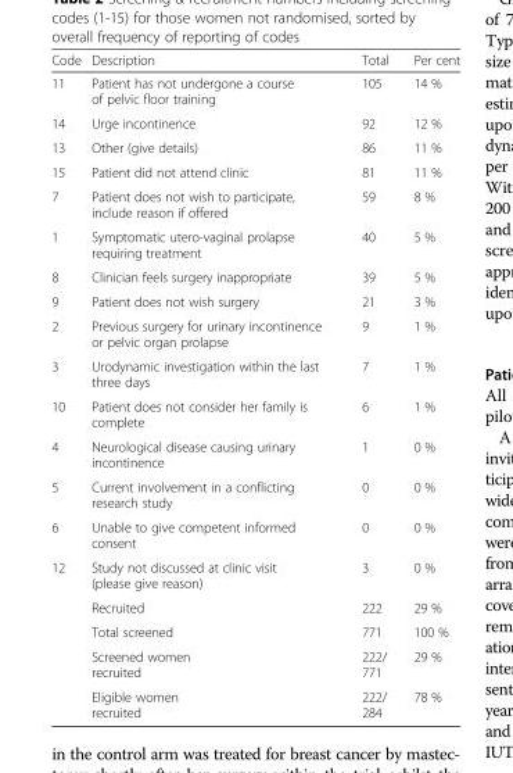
<table><thead><tr><td>Code</td><td>Description</td><td>Total</td><td>Per cent</td></tr></thead><tbody><tr><td>11</td><td>Patient has not undergone a course of pelvic floor training</td><td>105</td><td>14 %</td></tr><tr><td>14</td><td>Urge incontinence</td><td>92</td><td>12 %</td></tr><tr><td>13</td><td>Other (give details)</td><td>86</td><td>11 %</td></tr><tr><td>15</td><td>Patient did not attend clinic</td><td>81</td><td>11 %</td></tr><tr><td>7</td><td>Patient does not wish to participate, include reason if offered</td><td>59</td><td>8 %</td></tr><tr><td>1</td><td>Symptomatic utero-vaginal prolapse requiring treatment</td><td>40</td><td>5 %</td></tr><tr><td>8</td><td>Clinician feels surgery inappropriate</td><td>39</td><td>5 %</td></tr><tr><td>9</td><td>Patient does not wish surgery</td><td>21</td><td>3 %</td></tr><tr><td>2</td><td>Previous surgery for urinary incontinence or pelvic organ prolapse</td><td>9</td><td>1 %</td></tr><tr><td>3</td><td>Urodynamic investigation within the last three days</td><td>7</td><td>1 %</td></tr><tr><td>10</td><td>Patient does not consider her family is complete</td><td>6</td><td>1 %</td></tr><tr><td>4</td><td>Neurological disease causing urinary incontinence</td><td>1</td><td>0 %</td></tr><tr><td>5</td><td>Current involvement in a conflicting research study</td><td>0</td><td>0 %</td></tr><tr><td>6</td><td>Unable to give competent informed consent</td><td>0</td><td>0 %</td></tr><tr><td rowspan="5">12</td><td>Study not discussed at clinic visit (please give reason)</td><td>3</td><td>0 %</td></tr><tr><td>Recruited</td><td>222</td><td>29 %</td></tr><tr><td>Total screened</td><td>771</td><td>100 %</td></tr><tr><td>Screened women recruited</td><td>222/ 771</td><td>29 %</td></tr><tr><td>Eligible women recruited</td><td>222/ 284</td><td>78 %</td></tr></tbody></table>